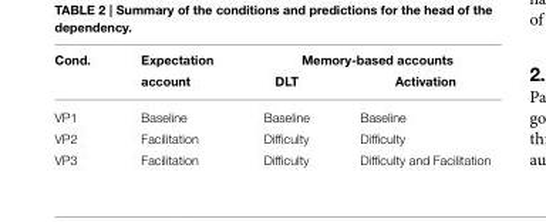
<table><thead><tr><td rowspan="2">Cond.</td><td rowspan="2">Expectation account</td><td colspan="2">Memory-based accounts</td></tr><tr><td>DLT</td><td>Activation</td></tr></thead><tbody><tr><td>VP1</td><td>Baseline</td><td>Baseline</td><td>Baseline</td></tr><tr><td>VP2</td><td>Facilitation</td><td>Difficulty</td><td>Difficulty</td></tr><tr><td>VP3</td><td>Facilitation</td><td>Difficulty</td><td>Difficulty and Facilitation</td></tr></tbody></table>